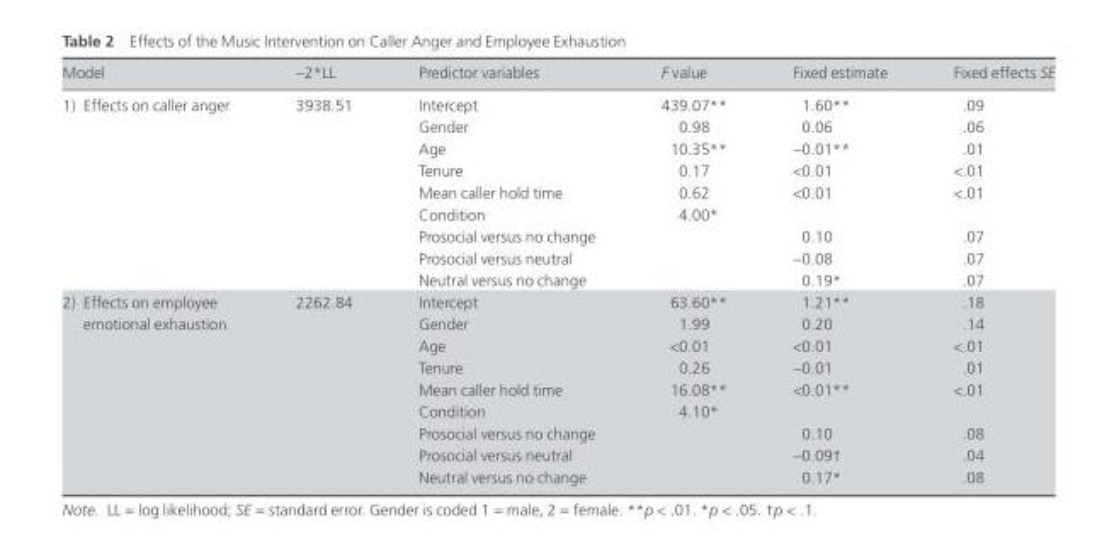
<table><thead><tr><td>Model</td><td>−2*LL</td><td>Predictor variables</td><td>F value</td><td>Fixed estimate</td><td>Fixed effects SE</td></tr></thead><tbody><tr><td rowspan="9">1) Effects on caller anger</td><td>3938.51</td><td>Intercept</td><td>439.07**</td><td>1.60**</td><td>.09</td></tr><tr><td></td><td>Gender</td><td>0.98</td><td>0.06</td><td>.06</td></tr><tr><td></td><td>Age</td><td>10.35**</td><td>−0.01**</td><td>.01</td></tr><tr><td></td><td>Tenure</td><td>0.17</td><td>&lt;0.01</td><td>&lt;.01</td></tr><tr><td></td><td>Mean caller hold time</td><td>0.62</td><td>&lt;0.01</td><td>&lt;.01</td></tr><tr><td></td><td>Condition</td><td>4.00*</td><td></td><td></td></tr><tr><td></td><td>Prosocial versus no change</td><td></td><td>0.10</td><td>.07</td></tr><tr><td></td><td>Prosocial versus neutral</td><td></td><td>−0.08</td><td>.07</td></tr><tr><td></td><td>Neutral versus no change</td><td></td><td>0.19*</td><td>.07</td></tr><tr><td rowspan="9">2) Effects on employee emotional exhaustion</td><td>2262.84</td><td>Intercept</td><td>63.60**</td><td>1.21**</td><td>.18</td></tr><tr><td></td><td>Gender</td><td>1.99</td><td>0.20</td><td>.14</td></tr><tr><td></td><td>Age</td><td>&lt;0.01</td><td>&lt;0.01</td><td>&lt;.01</td></tr><tr><td></td><td>Tenure</td><td>0.26</td><td>−0.01</td><td>.01</td></tr><tr><td></td><td>Mean caller hold time</td><td>16.08**</td><td>&lt;0.01**</td><td>&lt;.01</td></tr><tr><td></td><td>Condition</td><td>4.10*</td><td></td><td></td></tr><tr><td></td><td>Prosocial versus no change</td><td></td><td>0.10</td><td>.08</td></tr><tr><td></td><td>Prosocial versus neutral</td><td></td><td>−0.09†</td><td>.04</td></tr><tr><td></td><td>Neutral versus no change</td><td></td><td>0.17*</td><td>.08</td></tr></tbody></table>